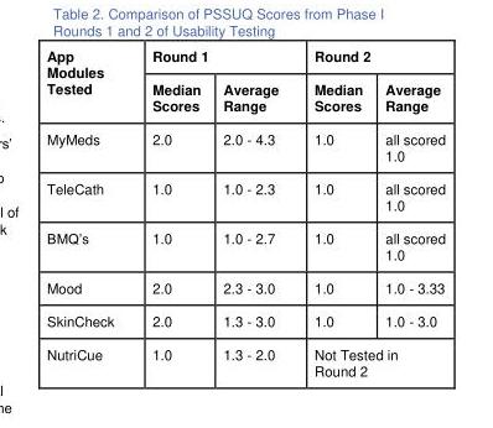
<table><thead><tr><td rowspan="2">App Modules Tested</td><td colspan="2">Round 1</td><td colspan="2">Round 2</td></tr><tr><td>Median Scores</td><td>Average Range</td><td>Median Scores</td><td>Average Range</td></tr></thead><tbody><tr><td>MyMeds</td><td>2.0</td><td>2.0 - 4.3</td><td>1.0</td><td>all scored 1.0</td></tr><tr><td>TeleCath</td><td>1.0</td><td>1.0 - 2.3</td><td>1.0</td><td>all scored 1.0</td></tr><tr><td>BMQ’s</td><td>1.0</td><td>1.0 - 2.7</td><td>1.0</td><td>all scored 1.0</td></tr><tr><td>Mood</td><td>2.0</td><td>2.3 - 3.0</td><td>1.0</td><td>1.0 - 3.33</td></tr><tr><td>SkinCheck</td><td>2.0</td><td>1.3 - 3.0</td><td>1.0</td><td>1.0 - 3.0</td></tr><tr><td>NutriCue</td><td>1.0</td><td>1.3 - 2.0</td><td colspan="2">Not Tested in Round 2</td></tr></tbody></table>